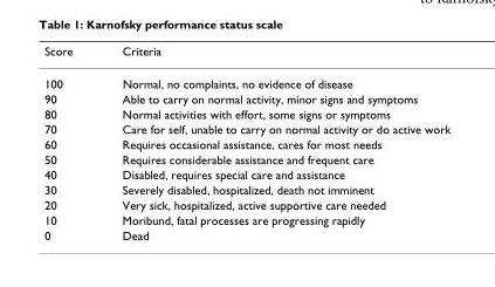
<table><thead><tr><td>Score</td><td>Criteria</td></tr></thead><tbody><tr><td>100</td><td>Normal, no complaints, no evidence of disease</td></tr><tr><td>90</td><td>Able to carry on normal activity, minor signs and symptoms</td></tr><tr><td>80</td><td>Normal activities with effort, some signs or symptoms</td></tr><tr><td>70</td><td>Care for self, unable to carry on normal activity or do active work</td></tr><tr><td>60</td><td>Requires occasional assistance, cares for most needs</td></tr><tr><td>50</td><td>Requires considerable assistance and frequent care</td></tr><tr><td>40</td><td>Disabled, requires special care and assistance</td></tr><tr><td>30</td><td>Severely disabled, hospitalized, death not imminent</td></tr><tr><td>20</td><td>Very sick, hospitalized, active supportive care needed</td></tr><tr><td>10</td><td>Moribund, fatal processes are progressing rapidly</td></tr><tr><td>0</td><td>Dead</td></tr></tbody></table>